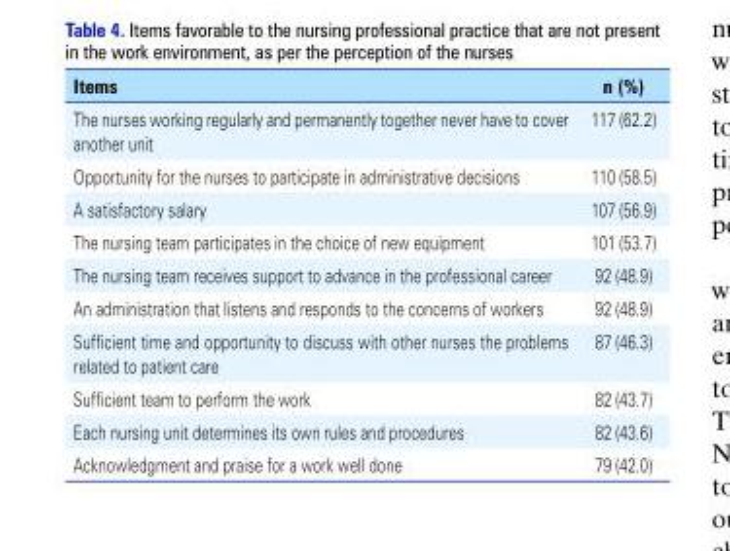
<table><thead><tr><td>Items</td><td>n (%)</td></tr></thead><tbody><tr><td>The nurses working regularly and permanently together never have to cover another unit</td><td>117 (62.2)</td></tr><tr><td>Opportunity for the nurses to participate in administrative decisions</td><td>110 (58.5)</td></tr><tr><td>A satisfactory salary</td><td>107 (56.9)</td></tr><tr><td>The nursing team participates in the choice of new equipment</td><td>101 (53.7)</td></tr><tr><td>The nursing team receives support to advance in the professional career</td><td>92 (48.9)</td></tr><tr><td>An administration that listens and responds to the concerns of workers</td><td>92 (48.9)</td></tr><tr><td>Sufficient time and opportunity to discuss with other nurses the problems related to patient care</td><td>87 (46.3)</td></tr><tr><td>Sufficient team to perform the work</td><td>82 (43.7)</td></tr><tr><td>Each nursing unit determines its own rules and procedures</td><td>82 (43.6)</td></tr><tr><td>Acknowledgment and praise for a work well done</td><td>79 (42.0)</td></tr></tbody></table>